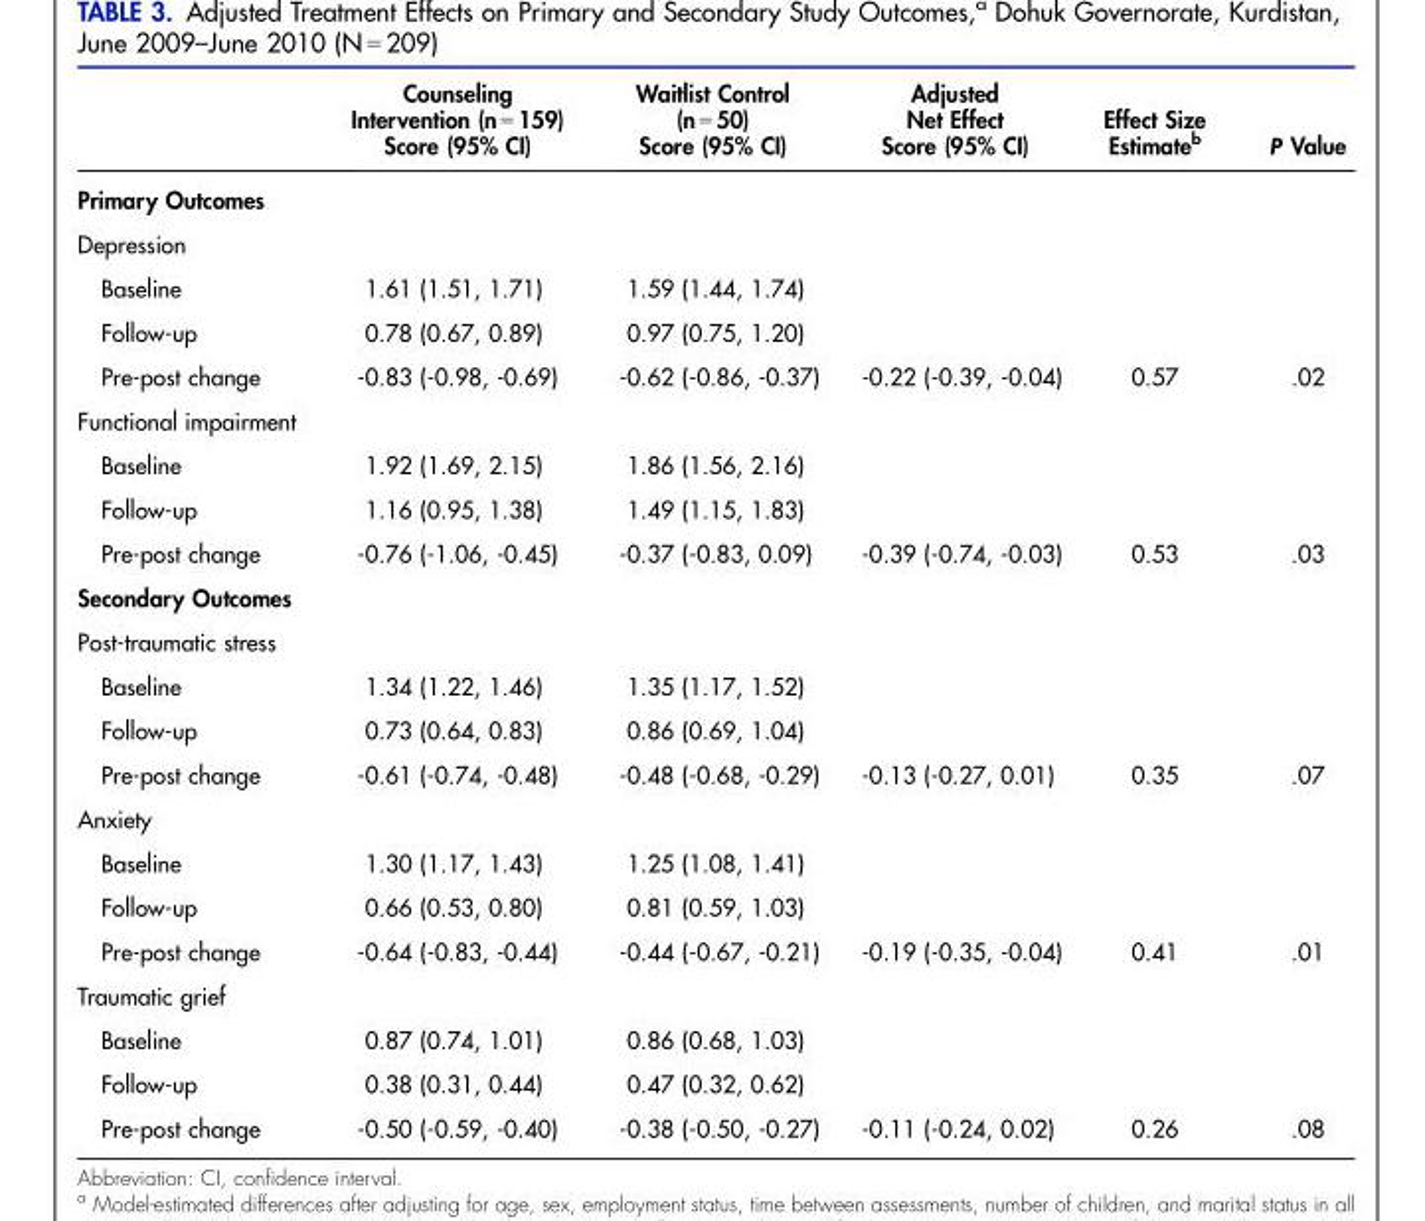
<table><thead><tr><td></td><td>Counseling Intervention (n = 159) Score (95% CI)</td><td>Waitlist Control (n = 50) Score (95% CI)</td><td>Adjusted Net Effect Score (95% CI)</td><td>Effect Size Estimate<sup>b</sup></td><td>P Value</td></tr></thead><tbody><tr><td colspan="6">Primary Outcomes</td></tr><tr><td colspan="6">Depression</td></tr><tr><td>Baseline</td><td>1.61 (1.51, 1.71)</td><td>1.59 (1.44, 1.74)</td><td></td><td></td><td></td></tr><tr><td>Follow-up</td><td>0.78 (0.67, 0.89)</td><td>0.97 (0.75, 1.20)</td><td></td><td></td><td></td></tr><tr><td>Pre-post change</td><td>-0.83 (-0.98, -0.69)</td><td>-0.62 (-0.86, -0.37)</td><td>-0.22 (-0.39, -0.04)</td><td>0.57</td><td>.02</td></tr><tr><td colspan="6">Functional impairment</td></tr><tr><td>Baseline</td><td>1.92 (1.69, 2.15)</td><td>1.86 (1.56, 2.16)</td><td></td><td></td><td></td></tr><tr><td>Follow-up</td><td>1.16 (0.95, 1.38)</td><td>1.49 (1.15, 1.83)</td><td></td><td></td><td></td></tr><tr><td>Pre-post change</td><td>-0.76 (-1.06, -0.45)</td><td>-0.37 (-0.83, 0.09)</td><td>-0.39 (-0.74, -0.03)</td><td>0.53</td><td>.03</td></tr><tr><td colspan="6">Secondary Outcomes</td></tr><tr><td colspan="6">Post-traumatic stress</td></tr><tr><td>Baseline</td><td>1.34 (1.22, 1.46)</td><td>1.35 (1.17, 1.52)</td><td></td><td></td><td></td></tr><tr><td>Follow-up</td><td>0.73 (0.64, 0.83)</td><td>0.86 (0.69, 1.04)</td><td></td><td></td><td></td></tr><tr><td>Pre-post change</td><td>-0.61 (-0.74, -0.48)</td><td>-0.48 (-0.68, -0.29)</td><td>-0.13 (-0.27, 0.01)</td><td>0.35</td><td>.07</td></tr><tr><td colspan="6">Anxiety</td></tr><tr><td>Baseline</td><td>1.30 (1.17, 1.43)</td><td>1.25 (1.08, 1.41)</td><td></td><td></td><td></td></tr><tr><td>Follow-up</td><td>0.66 (0.53, 0.80)</td><td>0.81 (0.59, 1.03)</td><td></td><td></td><td></td></tr><tr><td>Pre-post change</td><td>-0.64 (-0.83, -0.44)</td><td>-0.44 (-0.67, -0.21)</td><td>-0.19 (-0.35, -0.04)</td><td>0.41</td><td>.01</td></tr><tr><td colspan="6">Traumatic grief</td></tr><tr><td>Baseline</td><td>0.87 (0.74, 1.01)</td><td>0.86 (0.68, 1.03)</td><td></td><td></td><td></td></tr><tr><td>Follow-up</td><td>0.38 (0.31, 0.44)</td><td>0.47 (0.32, 0.62)</td><td></td><td></td><td></td></tr><tr><td>Pre-post change</td><td>-0.50 (-0.59, -0.40)</td><td>-0.38 (-0.50, -0.27)</td><td>-0.11 (-0.24, 0.02)</td><td>0.26</td><td>.08</td></tr></tbody></table>